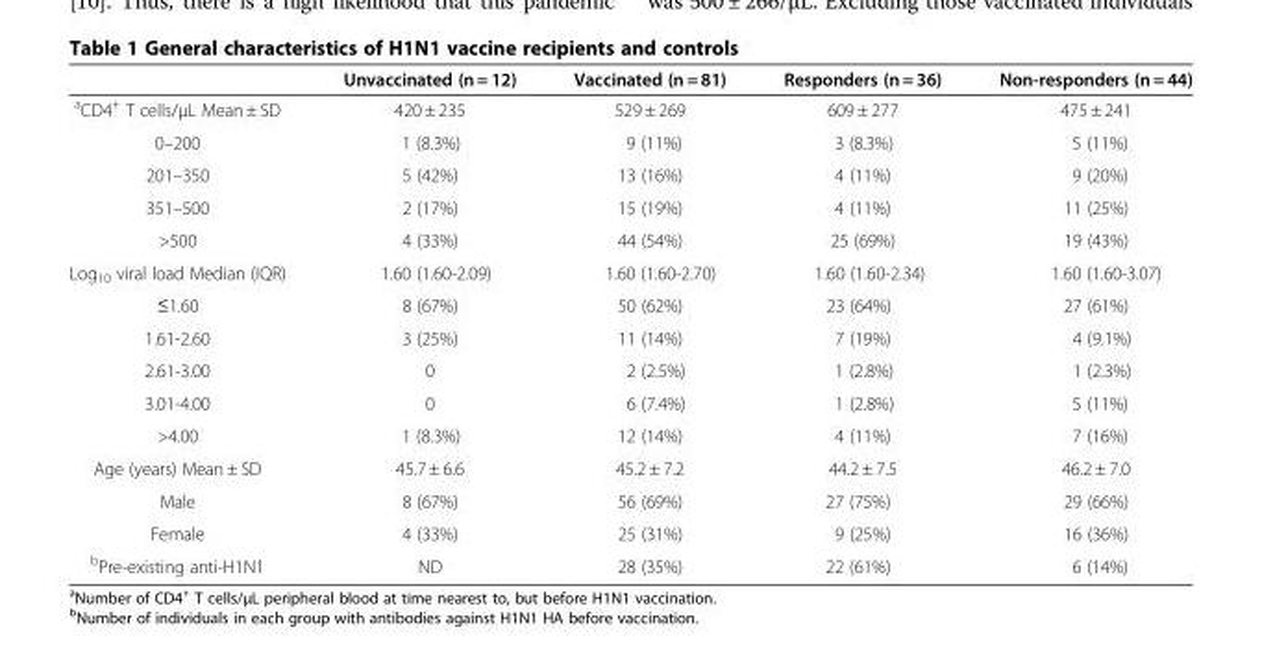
<table><thead><tr><td></td><td>Unvaccinated (n = 12)</td><td>Vaccinated (n = 81)</td><td>Responders (n = 36)</td><td>Non-responders (n = 44)</td></tr></thead><tbody><tr><td><sup>a</sup>CD4<sup>+</sup> T cells/μL Mean ± SD</td><td>420 ± 235</td><td>529 ± 269</td><td>609 ± 277</td><td>475 ± 241</td></tr><tr><td>0–200</td><td>1 (8.3%)</td><td>9 (11%)</td><td>3 (8.3%)</td><td>5 (11%)</td></tr><tr><td>201–350</td><td>5 (42%)</td><td>13 (16%)</td><td>4 (11%)</td><td>9 (20%)</td></tr><tr><td>351–500</td><td>2 (17%)</td><td>15 (19%)</td><td>4 (11%)</td><td>11 (25%)</td></tr><tr><td>&gt;500</td><td>4 (33%)</td><td>44 (54%)</td><td>25 (69%)</td><td>19 (43%)</td></tr><tr><td>Log<sub>10</sub> viral load Median (IQR)</td><td>1.60 (1.60-2.09)</td><td>1.60 (1.60-2.70)</td><td>1.60 (1.60-2.34)</td><td>1.60 (1.60-3.07)</td></tr><tr><td>≤1.60</td><td>8 (67%)</td><td>50 (62%)</td><td>23 (64%)</td><td>27 (61%)</td></tr><tr><td>1.61-2.60</td><td>3 (25%)</td><td>11 (14%)</td><td>7 (19%)</td><td>4 (9.1%)</td></tr><tr><td>2.61-3.00</td><td>0</td><td>2 (2.5%)</td><td>1 (2.8%)</td><td>1 (2.3%)</td></tr><tr><td>3.01-4.00</td><td>0</td><td>6 (7.4%)</td><td>1 (2.8%)</td><td>5 (11%)</td></tr><tr><td>&gt;4.00</td><td>1 (8.3%)</td><td>12 (14%)</td><td>4 (11%)</td><td>7 (16%)</td></tr><tr><td>Age (years) Mean ± SD</td><td>45.7 ± 6.6</td><td>45.2 ± 7.2</td><td>44.2 ± 7.5</td><td>46.2 ± 7.0</td></tr><tr><td>Male</td><td>8 (67%)</td><td>56 (69%)</td><td>27 (75%)</td><td>29 (66%)</td></tr><tr><td>Female</td><td>4 (33%)</td><td>25 (31%)</td><td>9 (25%)</td><td>16 (36%)</td></tr><tr><td><sup>b</sup>Pre-existing anti-H1N1</td><td>ND</td><td>28 (35%)</td><td>22 (61%)</td><td>6 (14%)</td></tr></tbody></table>